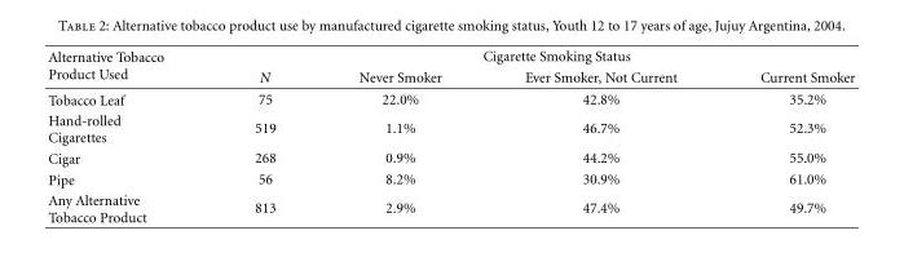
<table><thead><tr><td rowspan="2">Alternative Tobacco Product Used</td><td colspan="4">Cigarette Smoking Status</td></tr><tr><td>N</td><td>Never Smoker</td><td>Ever Smoker, Not Current</td><td>Current Smoker</td></tr></thead><tbody><tr><td>Tobacco Leaf</td><td>75</td><td>22.0%</td><td>42.8%</td><td>35.2%</td></tr><tr><td>Hand-rolled Cigarettes</td><td>519</td><td>1.1%</td><td>46.7%</td><td>52.3%</td></tr><tr><td>Cigar</td><td>268</td><td>0.9%</td><td>44.2%</td><td>55.0%</td></tr><tr><td>Pipe</td><td>56</td><td>8.2%</td><td>30.9%</td><td>61.0%</td></tr><tr><td>Any Alternative Tobacco Product</td><td>813</td><td>2.9%</td><td>47.4%</td><td>49.7%</td></tr></tbody></table>